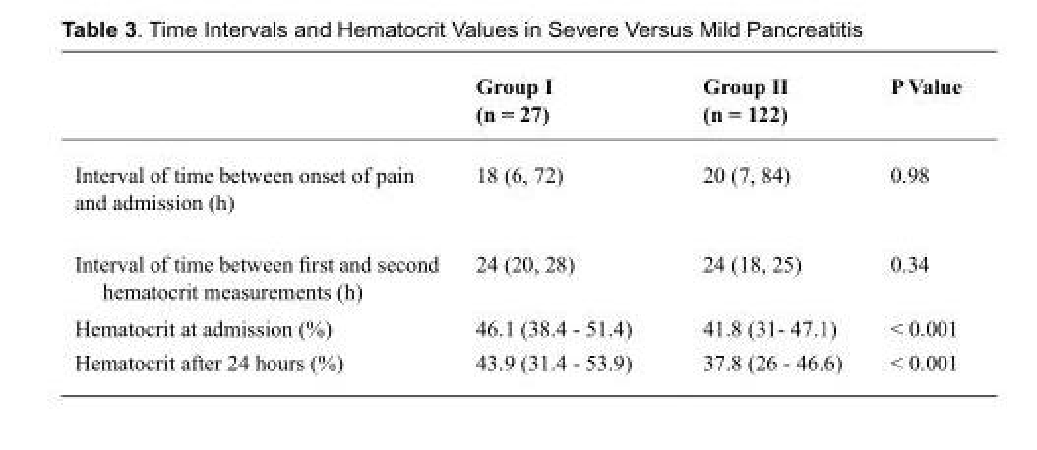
<table><thead><tr><td></td><td>Group I (n = 27)</td><td>Group II (n = 122)</td><td>P Value</td></tr></thead><tbody><tr><td>Interval of time between onset of pain and admission (h)</td><td>18 (6, 72)</td><td>20 (7, 84)</td><td>0.98</td></tr><tr><td>Interval of time between first and second hematocrit measurements (h)</td><td>24 (20, 28)</td><td>24 (18, 25)</td><td>0.34</td></tr><tr><td>Hematocrit at admission (%)</td><td>46.1 (38.4 - 51.4)</td><td>41.8 (31- 47.1)</td><td>&lt; 0.001</td></tr><tr><td>Hematocrit after 24 hours (%)</td><td>43.9 (31.4 - 53.9)</td><td>37.8 (26 - 46.6)</td><td>&lt; 0.001</td></tr></tbody></table>